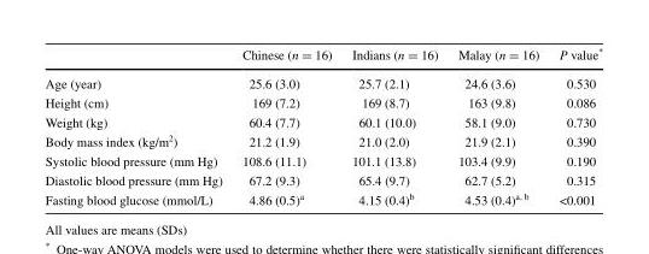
<table><thead><tr><td></td><td>Chinese (n = 16)</td><td>Indians (n = 16)</td><td>Malay (n = 16)</td><td>P value*</td></tr></thead><tbody><tr><td>Age (year)</td><td>25.6 (3.0)</td><td>25.7 (2.1)</td><td>24.6 (3.6)</td><td>0.530</td></tr><tr><td>Height (cm)</td><td>169 (7.2)</td><td>169 (8.7)</td><td>163 (9.8)</td><td>0.086</td></tr><tr><td>Weight (kg)</td><td>60.4 (7.7)</td><td>60.1 (10.0)</td><td>58.1 (9.0)</td><td>0.730</td></tr><tr><td>Body mass index (kg/m<sup>2</sup>)</td><td>21.2 (1.9)</td><td>21.0 (2.0)</td><td>21.9 (2.1)</td><td>0.390</td></tr><tr><td>Systolic blood pressure (mm Hg)</td><td>108.6 (11.1)</td><td>101.1 (13.8)</td><td>103.4 (9.9)</td><td>0.190</td></tr><tr><td>Diastolic blood pressure (mm Hg)</td><td>67.2 (9.3)</td><td>65.4 (9.7)</td><td>62.7 (5.2)</td><td>0.315</td></tr><tr><td>Fasting blood glucose (mmol/L)</td><td>4.86 (0.5)<sup>a</sup></td><td>4.15 (0.4)<sup>b</sup></td><td>4.53 (0.4)<sup>a, b</sup></td><td>&lt;0.001</td></tr></tbody></table>